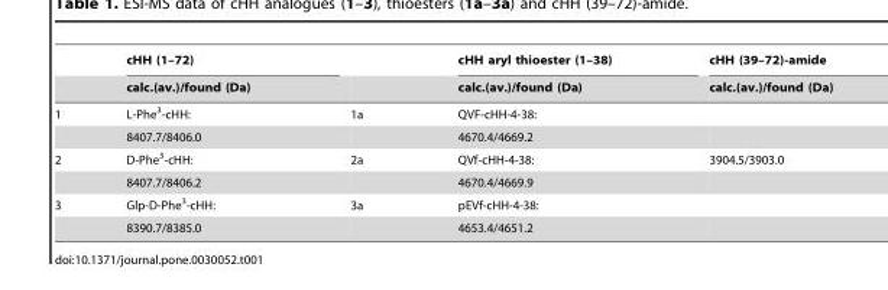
<table><thead><tr><td rowspan="2"></td><td rowspan="2">cHH (1–72) calc.(av.)/found (Da)</td><td rowspan="2"></td><td rowspan="2">cHH aryl thioester (1–38) calc.(av.)/found (Da)</td><td rowspan="2">cHH (39–72)-amide calc.(av.)/found (Da)</td></tr><tr></tr></thead><tbody><tr><td rowspan="2">1</td><td>L-Phe<sup>3</sup>-cHH:</td><td>1a</td><td>QVF-cHH-4-38:</td><td></td></tr><tr><td>8407.7/8406.0</td><td></td><td>4670.4/4669.2</td><td></td></tr><tr><td rowspan="2">2</td><td>D-Phe<sup>3</sup>-cHH:</td><td>2a</td><td>QVf-cHH-4-38:</td><td>3904.5/3903.0</td></tr><tr><td>8407.7/8406.2</td><td></td><td>4670.4/4669.9</td><td></td></tr><tr><td rowspan="2">3</td><td>Glp-D-Phe<sup>3</sup>-cHH:</td><td>3a</td><td>pEVf-cHH-4-38:</td><td></td></tr><tr><td>8390.7/8385.0</td><td></td><td>4653.4/4651.2</td><td></td></tr></tbody></table>